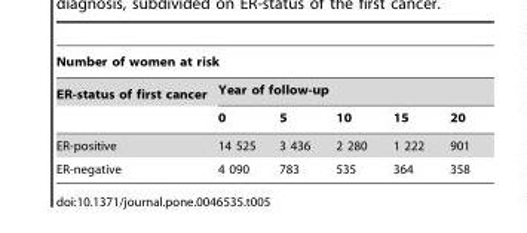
<table><thead><tr><td colspan="6">Number of women at risk</td></tr><tr><td rowspan="2">ER-status of first cancer</td><td colspan="5">Year of follow-up</td></tr><tr><td>0</td><td>5</td><td>10</td><td>15</td><td>20</td></tr></thead><tbody><tr><td>ER-positive</td><td>14 525</td><td>3 436</td><td>2 280</td><td>1 222</td><td>901</td></tr><tr><td>ER-negative</td><td>4 090</td><td>783</td><td>535</td><td>364</td><td>358</td></tr></tbody></table>